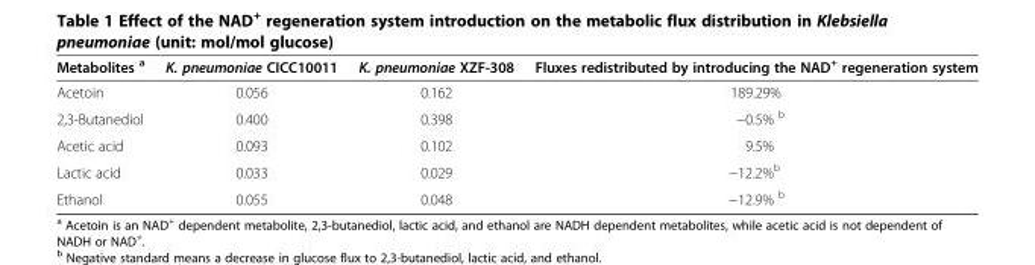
<table><thead><tr><td>Metabolites <sup>a</sup></td><td>K. pneumoniae CICC10011</td><td>K. pneumoniae XZF-308</td><td>Fluxes redistributed by introducing the NAD<sup>+</sup> regeneration system</td></tr></thead><tbody><tr><td>Acetoin</td><td>0.056</td><td>0.162</td><td>189.29%</td></tr><tr><td>2,3-Butanediol</td><td>0.400</td><td>0.398</td><td>−0.5% <sup>b</sup></td></tr><tr><td>Acetic acid</td><td>0.093</td><td>0.102</td><td>9.5%</td></tr><tr><td>Lactic acid</td><td>0.033</td><td>0.029</td><td>−12.2%<sup>b</sup></td></tr><tr><td>Ethanol</td><td>0.055</td><td>0.048</td><td>−12.9% <sup>b</sup></td></tr></tbody></table>